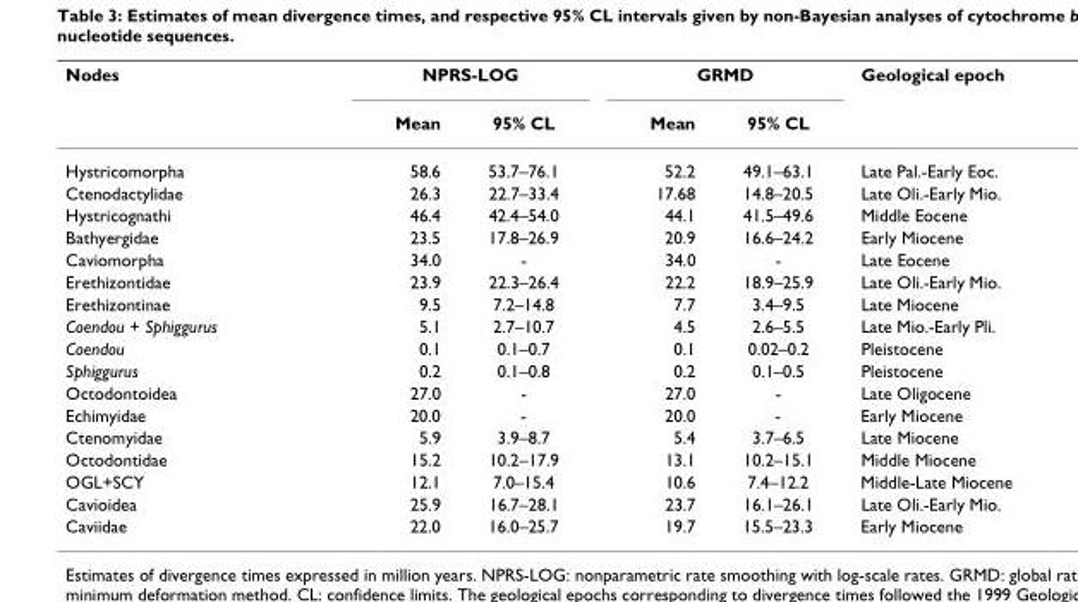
<table><thead><tr><td rowspan="2">Nodes</td><td colspan="2">NPRS-LOG</td><td colspan="2">GRMD</td><td rowspan="2">Geological epoch</td></tr><tr><td>Mean</td><td>95% CL</td><td>Mean</td><td>95% CL</td></tr></thead><tbody><tr><td>Hystricomorpha</td><td>58.6</td><td>53.7–76.1</td><td>52.2</td><td>49.1–63.1</td><td>Late Pal.-Early Eoc.</td></tr><tr><td>Ctenodactylidae</td><td>26.3</td><td>22.7–33.4</td><td>17.68</td><td>14.8–20.5</td><td>Late Oli.-Early Mio.</td></tr><tr><td>Hystricognathi</td><td>46.4</td><td>42.4–54.0</td><td>44.1</td><td>41.5–49.6</td><td>Middle Eocene</td></tr><tr><td>Bathyergidae</td><td>23.5</td><td>17.8–26.9</td><td>20.9</td><td>16.6–24.2</td><td>Early Miocene</td></tr><tr><td>Caviomorpha</td><td>34.0</td><td>-</td><td>34.0</td><td>-</td><td>Late Eocene</td></tr><tr><td>Erethizontidae</td><td>23.9</td><td>22.3–26.4</td><td>22.2</td><td>18.9–25.9</td><td>Late Oli.-Early Mio.</td></tr><tr><td>Erethizontinae</td><td>9.5</td><td>7.2–14.8</td><td>7.7</td><td>3.4–9.5</td><td>Late Miocene</td></tr><tr><td>Coendou + Sphiggurus</td><td>5.1</td><td>2.7–10.7</td><td>4.5</td><td>2.6–5.5</td><td>Late Mio.-Early Pli.</td></tr><tr><td>Coendou</td><td>0.1</td><td>0.1–0.7</td><td>0.1</td><td>0.02–0.2</td><td>Pleistocene</td></tr><tr><td>Sphiggurus</td><td>0.2</td><td>0.1–0.8</td><td>0.2</td><td>0.1–0.5</td><td>Pleistocene</td></tr><tr><td>Octodontoidea</td><td>27.0</td><td>-</td><td>27.0</td><td>-</td><td>Late Oligocene</td></tr><tr><td>Echimyidae</td><td>20.0</td><td>-</td><td>20.0</td><td>-</td><td>Early Miocene</td></tr><tr><td>Ctenomyidae</td><td>5.9</td><td>3.9–8.7</td><td>5.4</td><td>3.7–6.5</td><td>Late Miocene</td></tr><tr><td>Octodontidae</td><td>15.2</td><td>10.2–17.9</td><td>13.1</td><td>10.2–15.1</td><td>Middle Miocene</td></tr><tr><td>OGL+SCY</td><td>12.1</td><td>7.0–15.4</td><td>10.6</td><td>7.4–12.2</td><td>Middle-Late Miocene</td></tr><tr><td>Cavioidea</td><td>25.9</td><td>16.7–28.1</td><td>23.7</td><td>16.1–26.1</td><td>Late Oli.-Early Mio.</td></tr><tr><td>Caviidae</td><td>22.0</td><td>16.0–25.7</td><td>19.7</td><td>15.5–23.3</td><td>Early Miocene</td></tr></tbody></table>